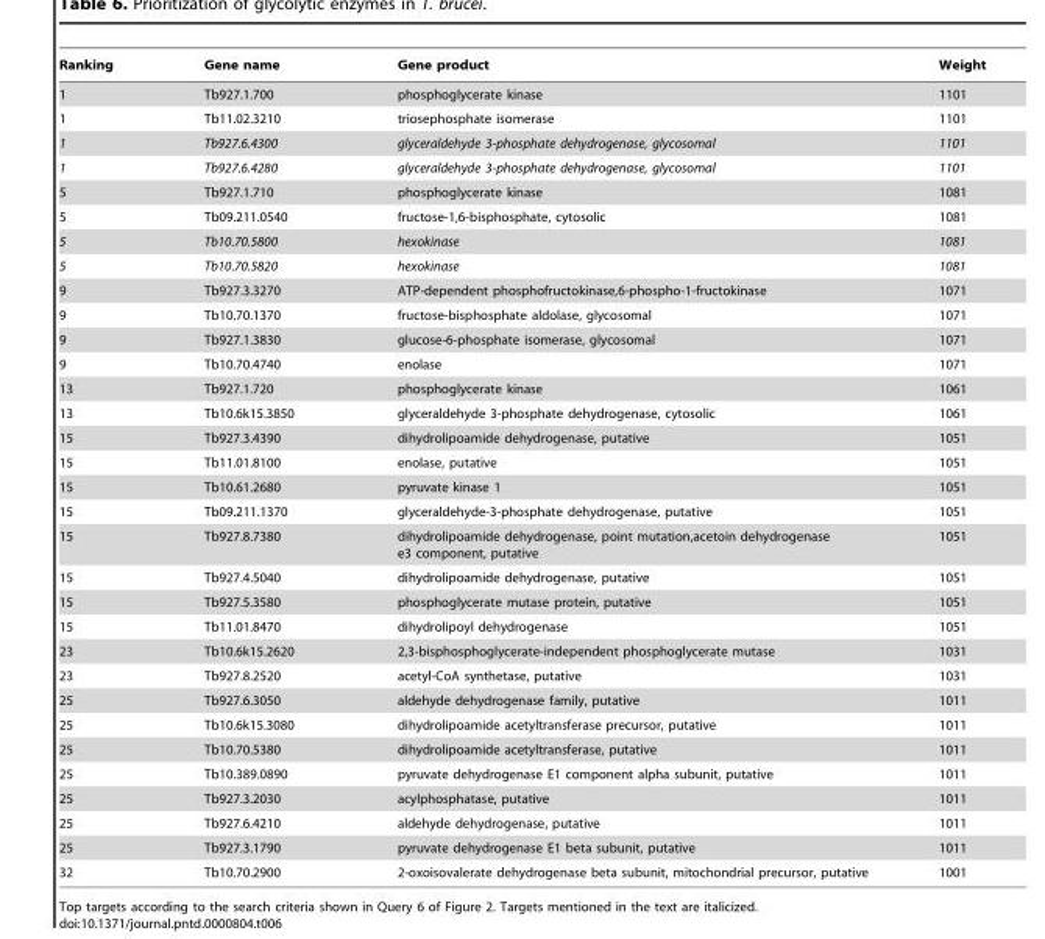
<table><thead><tr><td>Ranking</td><td>Gene name</td><td>Gene product</td><td>Weight</td></tr></thead><tbody><tr><td>1</td><td>Tb927.1.700</td><td>phosphoglycerate kinase</td><td>1101</td></tr><tr><td>1</td><td>Tb11.02.3210</td><td>triosephosphate isomerase</td><td>1101</td></tr><tr><td>1</td><td>Tb927.6.4300</td><td>glyceraldehyde 3-phosphate dehydrogenase, glycosomal</td><td>1101</td></tr><tr><td>1</td><td>Tb927.6.4280</td><td>glyceraldehyde 3-phosphate dehydrogenase, glycosomal</td><td>1101</td></tr><tr><td>5</td><td>Tb927.1.710</td><td>phosphoglycerate kinase</td><td>1081</td></tr><tr><td>5</td><td>Tb09.211.0540</td><td>fructose-1,6-bisphosphate, cytosolic</td><td>1081</td></tr><tr><td>5</td><td>Tb10.70.5800</td><td>hexokinase</td><td>1081</td></tr><tr><td>5</td><td>Tb10.70.5820</td><td>hexokinase</td><td>1081</td></tr><tr><td>9</td><td>Tb927.3.3270</td><td>ATP-dependent phosphofructokinase,6-phospho-1-fructokinase</td><td>1071</td></tr><tr><td>9</td><td>Tb10.70.1370</td><td>fructose-bisphosphate aldolase, glycosomal</td><td>1071</td></tr><tr><td>9</td><td>Tb927.1.3830</td><td>glucose-6-phosphate isomerase, glycosomal</td><td>1071</td></tr><tr><td>9</td><td>Tb10.70.4740</td><td>enolase</td><td>1071</td></tr><tr><td>13</td><td>Tb927.1.720</td><td>phosphoglycerate kinase</td><td>1061</td></tr><tr><td>13</td><td>Tb10.6k15.3850</td><td>glyceraldehyde 3-phosphate dehydrogenase, cytosolic</td><td>1061</td></tr><tr><td>15</td><td>Tb927.3.4390</td><td>dihydrolipoamide dehydrogenase, putative</td><td>1051</td></tr><tr><td>15</td><td>Tb11.01.8100</td><td>enolase, putative</td><td>1051</td></tr><tr><td>15</td><td>Tb10.61.2680</td><td>pyruvate kinase 1</td><td>1051</td></tr><tr><td>15</td><td>Tb09.211.1370</td><td>glyceraldehyde-3-phosphate dehydrogenase, putative</td><td>1051</td></tr><tr><td>15</td><td>Tb927.8.7380</td><td>dihydrolipoamide dehydrogenase, point mutation,acetoin dehydrogenase e3 component, putative</td><td>1051</td></tr><tr><td>15</td><td>Tb927.4.5040</td><td>dihydrolipoamide dehydrogenase, putative</td><td>1051</td></tr><tr><td>15</td><td>Tb927.5.3580</td><td>phosphoglycerate mutase protein, putative</td><td>1051</td></tr><tr><td>15</td><td>Tb11.01.8470</td><td>dihydrolipoyl dehydrogenase</td><td>1051</td></tr><tr><td>23</td><td>Tb10.6k15.2620</td><td>2,3-bisphosphoglycerate-independent phosphoglycerate mutase</td><td>1031</td></tr><tr><td>23</td><td>Tb927.8.2520</td><td>acetyl-CoA synthetase, putative</td><td>1031</td></tr><tr><td>25</td><td>Tb927.6.3050</td><td>aldehyde dehydrogenase family, putative</td><td>1011</td></tr><tr><td>25</td><td>Tb10.6k15.3080</td><td>dihydrolipoamide acetyltransferase precursor, putative</td><td>1011</td></tr><tr><td>25</td><td>Tb10.70.5380</td><td>dihydrolipoamide acetyltransferase, putative</td><td>1011</td></tr><tr><td>25</td><td>Tb10.389.0890</td><td>pyruvate dehydrogenase E1 component alpha subunit, putative</td><td>1011</td></tr><tr><td>25</td><td>Tb927.3.2030</td><td>acylphosphatase, putative</td><td>1011</td></tr><tr><td>25</td><td>Tb927.6.4210</td><td>aldehyde dehydrogenase, putative</td><td>1011</td></tr><tr><td>25</td><td>Tb927.3.1790</td><td>pyruvate dehydrogenase E1 beta subunit, putative</td><td>1011</td></tr><tr><td>32</td><td>Tb10.70.2900</td><td>2-oxoisovalerate dehydrogenase beta subunit, mitochondrial precursor, putative</td><td>1001</td></tr></tbody></table>